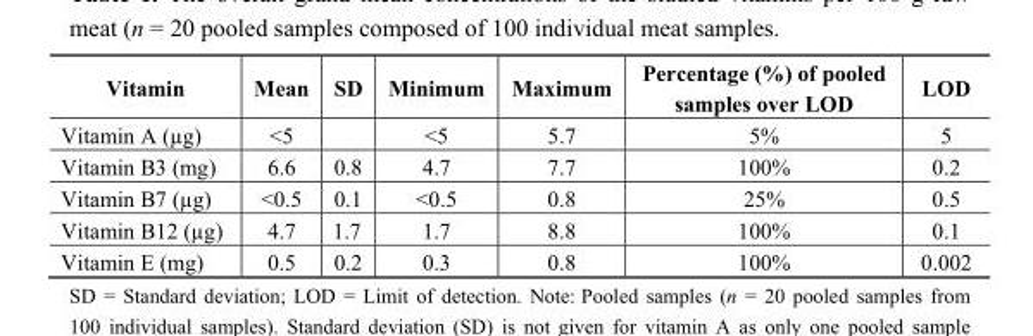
<table><thead><tr><td>Vitamin</td><td>Mean</td><td>SD</td><td>Minimum</td><td>Maximum</td><td>Percentage (%) of pooled samples over LOD</td><td>LOD</td></tr></thead><tbody><tr><td>Vitamin A (µg)</td><td>&lt;5</td><td></td><td>&lt;5</td><td>5.7</td><td>5%</td><td>5</td></tr><tr><td>Vitamin B3 (mg)</td><td>6.6</td><td>0.8</td><td>4.7</td><td>7.7</td><td>100%</td><td>0.2</td></tr><tr><td>Vitamin B7 (µg)</td><td>&lt;0.5</td><td>0.1</td><td>&lt;0.5</td><td>0.8</td><td>25%</td><td>0.5</td></tr><tr><td>Vitamin B12 (µg)</td><td>4.7</td><td>1.7</td><td>1.7</td><td>8.8</td><td>100%</td><td>0.1</td></tr><tr><td>Vitamin E (mg)</td><td>0.5</td><td>0.2</td><td>0.3</td><td>0.8</td><td>100%</td><td>0.002</td></tr></tbody></table>